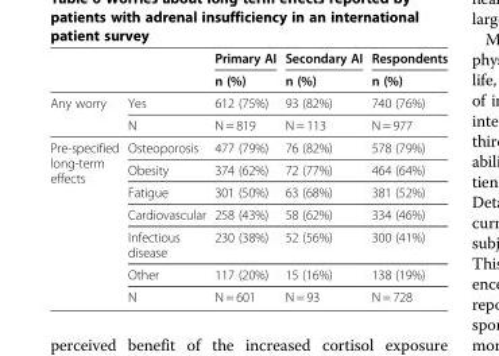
<table><thead><tr><td rowspan="2"></td><td rowspan="2"></td><td rowspan="2">Primary AI n (%)</td><td rowspan="2">Secondary AI n (%)</td><td rowspan="2">Respondents n (%)</td></tr><tr></tr></thead><tbody><tr><td rowspan="2">Any worry</td><td>Yes</td><td>612 (75%)</td><td>93 (82%)</td><td>740 (76%)</td></tr><tr><td>N</td><td>N = 819</td><td>N = 113</td><td>N = 977</td></tr><tr><td rowspan="7">Pre-specified long-term effects</td><td>Osteoporosis</td><td>477 (79%)</td><td>76 (82%)</td><td>578 (79%)</td></tr><tr><td>Obesity</td><td>374 (62%)</td><td>72 (77%)</td><td>464 (64%)</td></tr><tr><td>Fatigue</td><td>301 (50%)</td><td>63 (68%)</td><td>381 (52%)</td></tr><tr><td>Cardiovascular</td><td>258 (43%)</td><td>58 (62%)</td><td>334 (46%)</td></tr><tr><td>Infectious disease</td><td>230 (38%)</td><td>52 (56%)</td><td>300 (41%)</td></tr><tr><td>Other</td><td>117 (20%)</td><td>15 (16%)</td><td>138 (19%)</td></tr><tr><td>N</td><td>N = 601</td><td>N = 93</td><td>N = 728</td></tr></tbody></table>